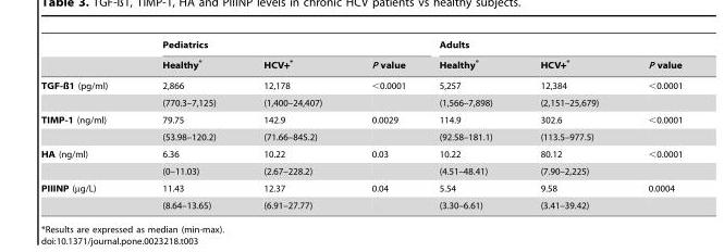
<table><thead><tr><td rowspan="2"></td><td colspan="3">Pediatrics</td><td colspan="3">Adults</td></tr><tr><td>Healthy*</td><td>HCV+*</td><td>P value</td><td>Healthy*</td><td>HCV+*</td><td>P value</td></tr></thead><tbody><tr><td rowspan="2">TGF-ß1 (pg/ml)</td><td>2,866</td><td>12,178</td><td>&lt;0.0001</td><td>5,257</td><td>12,384</td><td>&lt;0.0001</td></tr><tr><td>(770.3–7,125)</td><td>(1,400–24,407)</td><td></td><td>(1,566–7,898)</td><td>(2,151–25,679)</td><td></td></tr><tr><td rowspan="2">TIMP-1 (ng/ml)</td><td>79.75</td><td>142.9</td><td>0.0029</td><td>114.9</td><td>302.6</td><td>&lt;0.0001</td></tr><tr><td>(53.98–120.2)</td><td>(71.66–845.2)</td><td></td><td>(92.58–181.1)</td><td>(113.5–977.5)</td><td></td></tr><tr><td rowspan="2">HA (ng/ml)</td><td>6.36</td><td>10.22</td><td>0.03</td><td>10.22</td><td>80.12</td><td>&lt;0.0001</td></tr><tr><td>(0–11.03)</td><td>(2.67–228.2)</td><td></td><td>(4.51–48.41)</td><td>(7.90–2,225)</td><td></td></tr><tr><td rowspan="2">PIIINP (µg/L)</td><td>11.43</td><td>12.37</td><td>0.04</td><td>5.54</td><td>9.58</td><td>0.0004</td></tr><tr><td>(8.64–13.65)</td><td>(6.91–27.77)</td><td></td><td>(3.30–6.61)</td><td>(3.41–39.42)</td><td></td></tr></tbody></table>